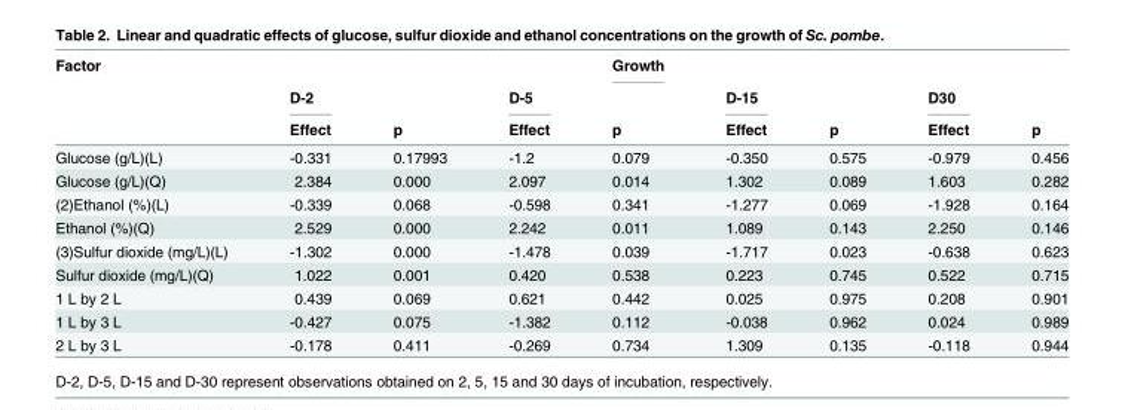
<table><thead><tr><td rowspan="3">Factor</td><td rowspan="3">D-2 Effect</td><td rowspan="3">p</td><td rowspan="3">D-5 Effect</td><td rowspan="3">Growth p</td><td rowspan="3">D-15 Effect</td><td rowspan="3">p</td><td rowspan="3">D30 Effect</td><td rowspan="3">p</td></tr><tr></tr><tr></tr></thead><tbody><tr><td>Glucose (g/L)(L)</td><td>-0.331</td><td>0.17993</td><td>-1.2</td><td>0.079</td><td>-0.350</td><td>0.575</td><td>-0.979</td><td>0.456</td></tr><tr><td>Glucose (g/L)(Q)</td><td>2.384</td><td>0.000</td><td>2.097</td><td>0.014</td><td>1.302</td><td>0.089</td><td>1.603</td><td>0.282</td></tr><tr><td>(2)Ethanol (%)(L)</td><td>-0.339</td><td>0.068</td><td>-0.598</td><td>0.341</td><td>-1.277</td><td>0.069</td><td>-1.928</td><td>0.164</td></tr><tr><td>Ethanol (%)(Q)</td><td>2.529</td><td>0.000</td><td>2.242</td><td>0.011</td><td>1.089</td><td>0.143</td><td>2.250</td><td>0.146</td></tr><tr><td>(3)Sulfur dioxide (mg/L)(L)</td><td>-1.302</td><td>0.000</td><td>-1.478</td><td>0.039</td><td>-1.717</td><td>0.023</td><td>-0.638</td><td>0.623</td></tr><tr><td>Sulfur dioxide (mg/L)(Q)</td><td>1.022</td><td>0.001</td><td>0.420</td><td>0.538</td><td>0.223</td><td>0.745</td><td>0.522</td><td>0.715</td></tr><tr><td>1 L by 2 L</td><td>0.439</td><td>0.069</td><td>0.621</td><td>0.442</td><td>0.025</td><td>0.975</td><td>0.208</td><td>0.901</td></tr><tr><td>1 L by 3 L</td><td>-0.427</td><td>0.075</td><td>-1.382</td><td>0.112</td><td>-0.038</td><td>0.962</td><td>0.024</td><td>0.989</td></tr><tr><td>2 L by 3 L</td><td>-0.178</td><td>0.411</td><td>-0.269</td><td>0.734</td><td>1.309</td><td>0.135</td><td>-0.118</td><td>0.944</td></tr></tbody></table>